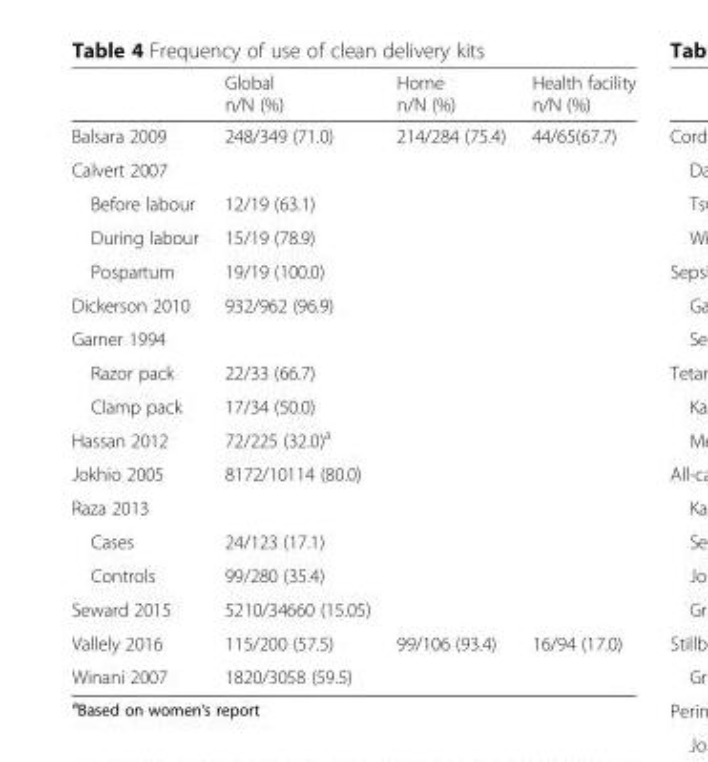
<table><thead><tr><td></td><td>Global n/N (%)</td><td>Home n/N (%)</td><td>Health facility n/N (%)</td></tr></thead><tbody><tr><td>Balsara 2009</td><td>248/349 (71.0)</td><td>214/284 (75.4)</td><td>44/65(67.7)</td></tr><tr><td colspan="4">Calvert 2007</td></tr><tr><td>Before labour</td><td>12/19 (63.1)</td><td></td><td></td></tr><tr><td>During labour</td><td>15/19 (78.9)</td><td></td><td></td></tr><tr><td>Pospartum</td><td>19/19 (100.0)</td><td></td><td></td></tr><tr><td>Dickerson 2010</td><td>932/962 (96.9)</td><td></td><td></td></tr><tr><td colspan="4">Garner 1994</td></tr><tr><td>Razor pack</td><td>22/33 (66.7)</td><td></td><td></td></tr><tr><td>Clamp pack</td><td>17/34 (50.0)</td><td></td><td></td></tr><tr><td>Hassan 2012</td><td>72/225 (32.0)<sup>a</sup></td><td></td><td></td></tr><tr><td>Jokhio 2005</td><td>8172/10114 (80.0)</td><td></td><td></td></tr><tr><td colspan="4">Raza 2013</td></tr><tr><td>Cases</td><td>24/123 (17.1)</td><td></td><td></td></tr><tr><td>Controls</td><td>99/280 (35.4)</td><td></td><td></td></tr><tr><td>Seward 2015</td><td>5210/34660 (15.05)</td><td></td><td></td></tr><tr><td>Vallely 2016</td><td>115/200 (57.5)</td><td>99/106 (93.4)</td><td>16/94 (17.0)</td></tr><tr><td>Winani 2007</td><td>1820/3058 (59.5)</td><td></td><td></td></tr></tbody></table>